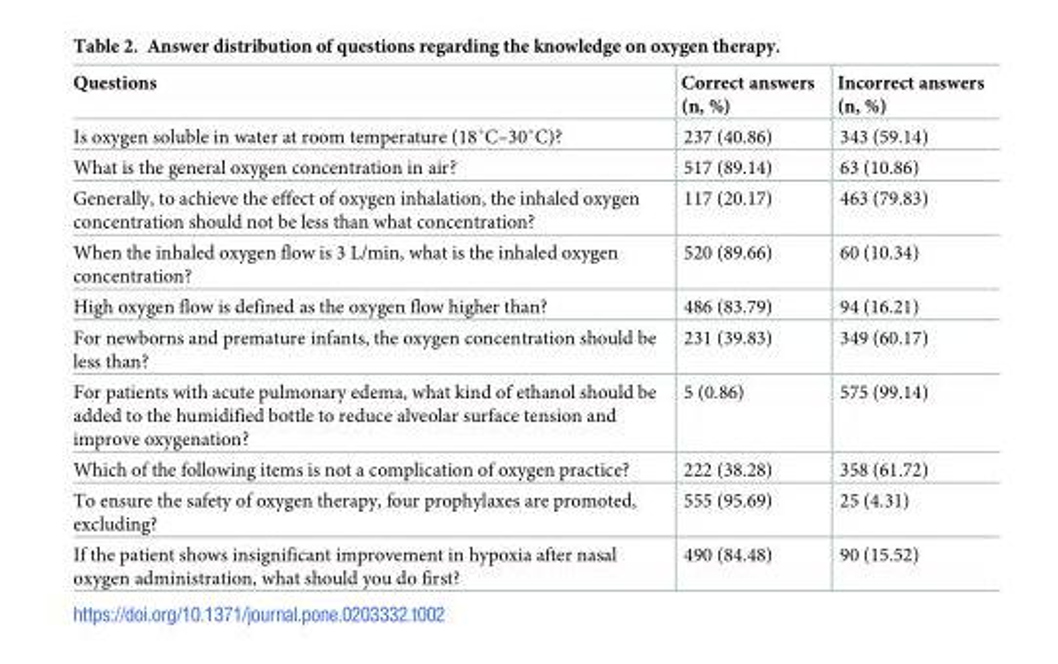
<table><thead><tr><td>Questions</td><td>Correct answers (n, %)</td><td>Incorrect answers (n, %)</td></tr></thead><tbody><tr><td>Is oxygen soluble in water at room temperature (18˚C–30˚C)?</td><td>237 (40.86)</td><td>343 (59.14)</td></tr><tr><td>What is the general oxygen concentration in air?</td><td>517 (89.14)</td><td>63 (10.86)</td></tr><tr><td>Generally, to achieve the effect of oxygen inhalation, the inhaled oxygen concentration should not be less than what concentration?</td><td>117 (20.17)</td><td>463 (79.83)</td></tr><tr><td>When the inhaled oxygen flow is 3 L/min, what is the inhaled oxygen concentration?</td><td>520 (89.66)</td><td>60 (10.34)</td></tr><tr><td>High oxygen flow is defined as the oxygen flow higher than?</td><td>486 (83.79)</td><td>94 (16.21)</td></tr><tr><td>For newborns and premature infants, the oxygen concentration should be less than?</td><td>231 (39.83)</td><td>349 (60.17)</td></tr><tr><td>For patients with acute pulmonary edema, what kind of ethanol should be added to the humidified bottle to reduce alveolar surface tension and improve oxygenation?</td><td>5 (0.86)</td><td>575 (99.14)</td></tr><tr><td>Which of the following items is not a complication of oxygen practice?</td><td>222 (38.28)</td><td>358 (61.72)</td></tr><tr><td>To ensure the safety of oxygen therapy, four prophylaxes are promoted, excluding?</td><td>555 (95.69)</td><td>25 (4.31)</td></tr><tr><td>If the patient shows insignificant improvement in hypoxia after nasal oxygen administration, what should you do first?</td><td>490 (84.48)</td><td>90 (15.52)</td></tr></tbody></table>